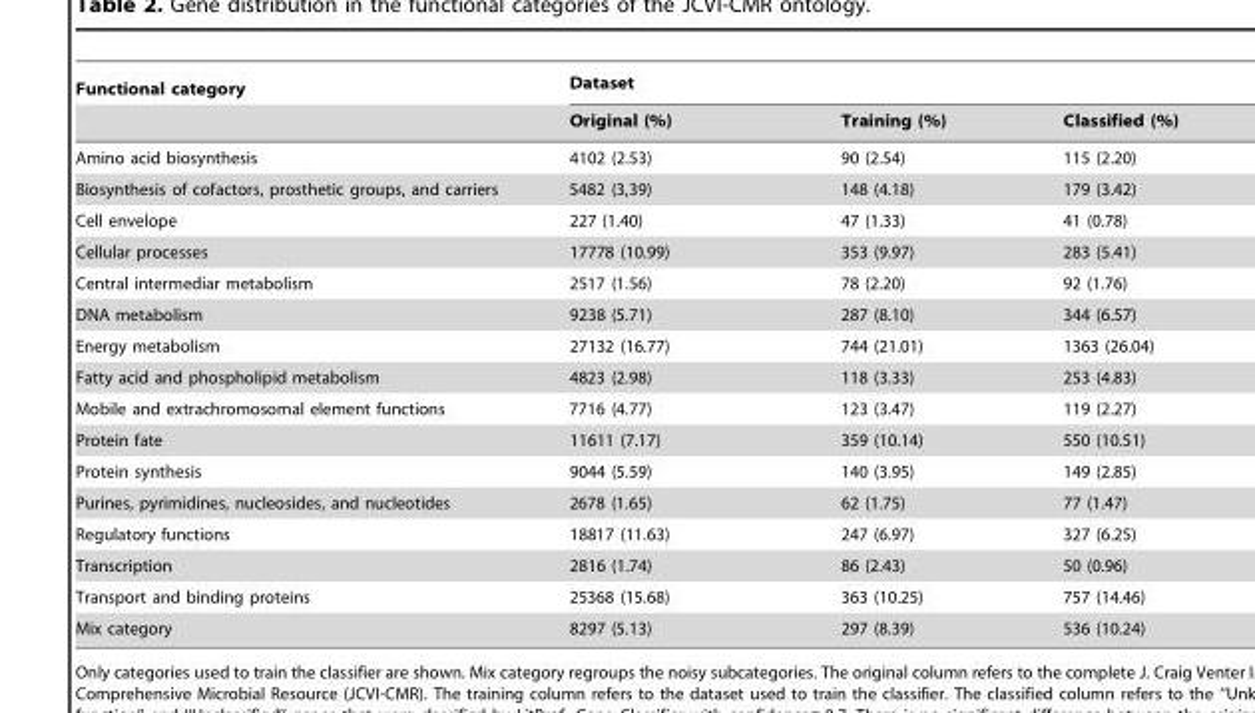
<table><thead><tr><td rowspan="2">Functional category</td><td colspan="3">Dataset</td></tr><tr><td>Original (%)</td><td>Training (%)</td><td>Classified (%)</td></tr></thead><tbody><tr><td>Amino acid biosynthesis</td><td>4102 (2.53)</td><td>90 (2.54)</td><td>115 (2.20)</td></tr><tr><td>Biosynthesis of cofactors, prosthetic groups, and carriers</td><td>5482 (3,39)</td><td>148 (4.18)</td><td>179 (3.42)</td></tr><tr><td>Cell envelope</td><td>227 (1.40)</td><td>47 (1.33)</td><td>41 (0.78)</td></tr><tr><td>Cellular processes</td><td>17778 (10.99)</td><td>353 (9.97)</td><td>283 (5.41)</td></tr><tr><td>Central intermediar metabolism</td><td>2517 (1.56)</td><td>78 (2.20)</td><td>92 (1.76)</td></tr><tr><td>DNA metabolism</td><td>9238 (5.71)</td><td>287 (8.10)</td><td>344 (6.57)</td></tr><tr><td>Energy metabolism</td><td>27132 (16.77)</td><td>744 (21.01)</td><td>1363 (26.04)</td></tr><tr><td>Fatty acid and phospholipid metabolism</td><td>4823 (2.98)</td><td>118 (3.33)</td><td>253 (4.83)</td></tr><tr><td>Mobile and extrachromosomal element functions</td><td>7716 (4.77)</td><td>123 (3.47)</td><td>119 (2.27)</td></tr><tr><td>Protein fate</td><td>11611 (7.17)</td><td>359 (10.14)</td><td>550 (10.51)</td></tr><tr><td>Protein synthesis</td><td>9044 (5.59)</td><td>140 (3.95)</td><td>149 (2.85)</td></tr><tr><td>Purines, pyrimidines, nucleosides, and nucleotides</td><td>2678 (1.65)</td><td>62 (1.75)</td><td>77 (1.47)</td></tr><tr><td>Regulatory functions</td><td>18817 (11.63)</td><td>247 (6.97)</td><td>327 (6.25)</td></tr><tr><td>Transcription</td><td>2816 (1.74)</td><td>86 (2.43)</td><td>50 (0.96)</td></tr><tr><td>Transport and binding proteins</td><td>25368 (15.68)</td><td>363 (10.25)</td><td>757 (14.46)</td></tr><tr><td>Mix category</td><td>8297 (5.13)</td><td>297 (8.39)</td><td>536 (10.24)</td></tr></tbody></table>